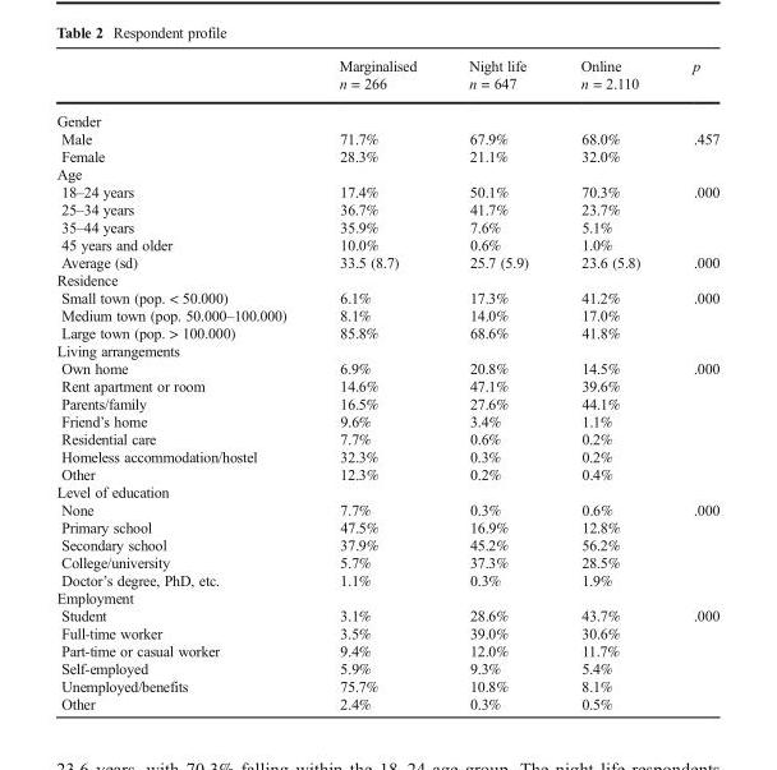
<table><thead><tr><td></td><td>Marginalised n = 266</td><td>Night life n = 647</td><td>Online n = 2.110</td><td>p</td></tr></thead><tbody><tr><td colspan="5">Gender</td></tr><tr><td>Male</td><td>71.7%</td><td>67.9%</td><td>68.0%</td><td>.457</td></tr><tr><td>Female</td><td>28.3%</td><td>21.1%</td><td>32.0%</td><td></td></tr><tr><td colspan="5">Age</td></tr><tr><td>18–24 years</td><td>17.4%</td><td>50.1%</td><td>70.3%</td><td>.000</td></tr><tr><td>25–34 years</td><td>36.7%</td><td>41.7%</td><td>23.7%</td><td></td></tr><tr><td>35–44 years</td><td>35.9%</td><td>7.6%</td><td>5.1%</td><td></td></tr><tr><td>45 years and older</td><td>10.0%</td><td>0.6%</td><td>1.0%</td><td></td></tr><tr><td>Average (sd)</td><td>33.5 (8.7)</td><td>25.7 (5.9)</td><td>23.6 (5.8)</td><td>.000</td></tr><tr><td colspan="5">Residence</td></tr><tr><td>Small town (pop. &lt; 50.000)</td><td>6.1%</td><td>17.3%</td><td>41.2%</td><td>.000</td></tr><tr><td>Medium town (pop. 50.000–100.000)</td><td>8.1%</td><td>14.0%</td><td>17.0%</td><td></td></tr><tr><td>Large town (pop. &gt; 100.000)</td><td>85.8%</td><td>68.6%</td><td>41.8%</td><td></td></tr><tr><td colspan="5">Living arrangements</td></tr><tr><td>Own home</td><td>6.9%</td><td>20.8%</td><td>14.5%</td><td>.000</td></tr><tr><td>Rent apartment or room</td><td>14.6%</td><td>47.1%</td><td>39.6%</td><td></td></tr><tr><td>Parents/family</td><td>16.5%</td><td>27.6%</td><td>44.1%</td><td></td></tr><tr><td>Friend’s home</td><td>9.6%</td><td>3.4%</td><td>1.1%</td><td></td></tr><tr><td>Residential care</td><td>7.7%</td><td>0.6%</td><td>0.2%</td><td></td></tr><tr><td>Homeless accommodation/hostel</td><td>32.3%</td><td>0.3%</td><td>0.2%</td><td></td></tr><tr><td>Other</td><td>12.3%</td><td>0.2%</td><td>0.4%</td><td></td></tr><tr><td colspan="5">Level of education</td></tr><tr><td>None</td><td>7.7%</td><td>0.3%</td><td>0.6%</td><td>.000</td></tr><tr><td>Primary school</td><td>47.5%</td><td>16.9%</td><td>12.8%</td><td></td></tr><tr><td>Secondary school</td><td>37.9%</td><td>45.2%</td><td>56.2%</td><td></td></tr><tr><td>College/university</td><td>5.7%</td><td>37.3%</td><td>28.5%</td><td></td></tr><tr><td>Doctor’s degree, PhD, etc.</td><td>1.1%</td><td>0.3%</td><td>1.9%</td><td></td></tr><tr><td colspan="5">Employment</td></tr><tr><td>Student</td><td>3.1%</td><td>28.6%</td><td>43.7%</td><td>.000</td></tr><tr><td>Full-time worker</td><td>3.5%</td><td>39.0%</td><td>30.6%</td><td></td></tr><tr><td>Part-time or casual worker</td><td>9.4%</td><td>12.0%</td><td>11.7%</td><td></td></tr><tr><td>Self-employed</td><td>5.9%</td><td>9.3%</td><td>5.4%</td><td></td></tr><tr><td>Unemployed/benefits</td><td>75.7%</td><td>10.8%</td><td>8.1%</td><td></td></tr><tr><td>Other</td><td>2.4%</td><td>0.3%</td><td>0.5%</td><td></td></tr></tbody></table>